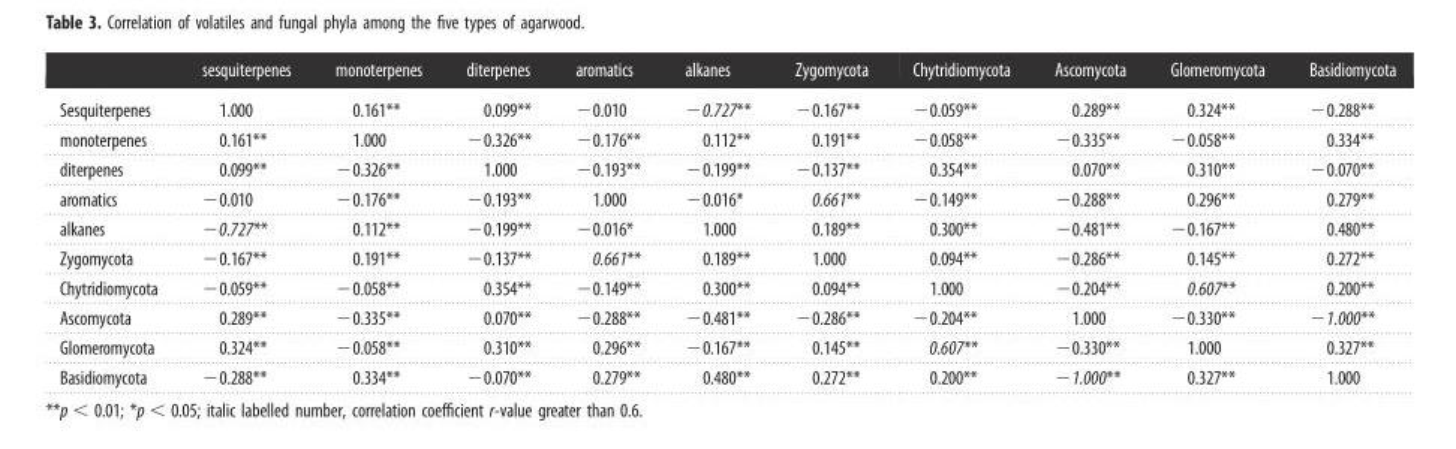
<table><thead><tr><td></td><td>sesquiterpenes</td><td>monoterpenes</td><td>diterpenes</td><td>aromatics</td><td>alkanes</td><td>Zygomycota</td><td>Chytridiomycota</td><td>Ascomycota</td><td>Glomeromycota</td><td>Basidiomycota</td></tr></thead><tbody><tr><td>Sesquiterpenes</td><td>1.000</td><td>0.161**</td><td>0.099**</td><td>−0.010</td><td>−0.727**</td><td>−0.167**</td><td>−0.059**</td><td>0.289**</td><td>0.324**</td><td>−0.288**</td></tr><tr><td>monoterpenes</td><td>0.161**</td><td>1.000</td><td>−0.326**</td><td>−0.176**</td><td>0.112**</td><td>0.191**</td><td>−0.058**</td><td>−0.335**</td><td>−0.058**</td><td>0.334**</td></tr><tr><td>diterpenes</td><td>0.099**</td><td>−0.326**</td><td>1.000</td><td>−0.193**</td><td>−0.199**</td><td>−0.137**</td><td>0.354**</td><td>0.070**</td><td>0.310**</td><td>−0.070**</td></tr><tr><td>aromatics</td><td>−0.010</td><td>−0.176**</td><td>−0.193**</td><td>1.000</td><td>−0.016*</td><td>0.661**</td><td>−0.149**</td><td>−0.288**</td><td>0.296**</td><td>0.279**</td></tr><tr><td>alkanes</td><td>−0.727**</td><td>0.112**</td><td>−0.199**</td><td>−0.016*</td><td>1.000</td><td>0.189**</td><td>0.300**</td><td>−0.481**</td><td>−0.167**</td><td>0.480**</td></tr><tr><td>Zygomycota</td><td>−0.167**</td><td>0.191**</td><td>−0.137**</td><td>0.661**</td><td>0.189**</td><td>1.000</td><td>0.094**</td><td>−0.286**</td><td>0.145**</td><td>0.272**</td></tr><tr><td>Chytridiomycota</td><td>−0.059**</td><td>−0.058**</td><td>0.354**</td><td>−0.149**</td><td>0.300**</td><td>0.094**</td><td>1.000</td><td>−0.204**</td><td>0.607**</td><td>0.200**</td></tr><tr><td>Ascomycota</td><td>0.289**</td><td>−0.335**</td><td>0.070**</td><td>−0.288**</td><td>−0.481**</td><td>−0.286**</td><td>−0.204**</td><td>1.000</td><td>−0.330**</td><td>−1.000**</td></tr><tr><td>Glomeromycota</td><td>0.324**</td><td>−0.058**</td><td>0.310**</td><td>0.296**</td><td>−0.167**</td><td>0.145**</td><td>0.607**</td><td>−0.330**</td><td>1.000</td><td>0.327**</td></tr><tr><td>Basidiomycota</td><td>−0.288**</td><td>0.334**</td><td>−0.070**</td><td>0.279**</td><td>0.480**</td><td>0.272**</td><td>0.200**</td><td>−1.000**</td><td>0.327**</td><td>1.000</td></tr></tbody></table>